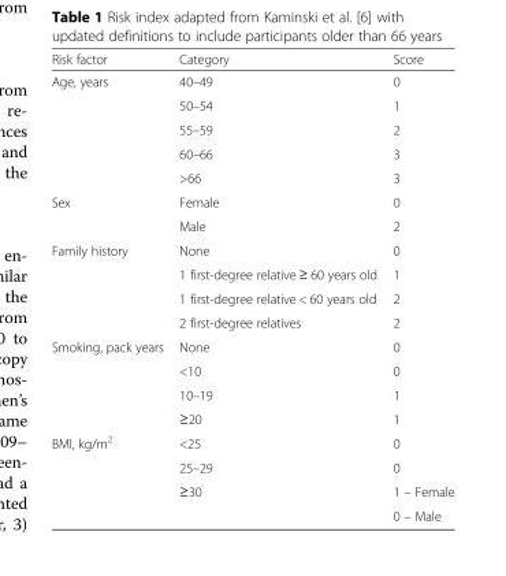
<table><thead><tr><td>Risk factor</td><td>Category</td><td>Score</td></tr></thead><tbody><tr><td rowspan="5">Age, years</td><td>40–49</td><td>0</td></tr><tr><td>50–54</td><td>1</td></tr><tr><td>55–59</td><td>2</td></tr><tr><td>60–66</td><td>3</td></tr><tr><td>&gt;66</td><td>3</td></tr><tr><td rowspan="2">Sex</td><td>Female</td><td>0</td></tr><tr><td>Male</td><td>2</td></tr><tr><td rowspan="4">Family history</td><td>None</td><td>0</td></tr><tr><td>1 first-degree relative ≥ 60 years old</td><td>1</td></tr><tr><td>1 first-degree relative &lt; 60 years old</td><td>2</td></tr><tr><td>2 first-degree relatives</td><td>2</td></tr><tr><td rowspan="4">Smoking, pack years</td><td>None</td><td>0</td></tr><tr><td>&lt;10</td><td>0</td></tr><tr><td>10–19</td><td>1</td></tr><tr><td>≥20</td><td>1</td></tr><tr><td rowspan="4">BMI, kg/m<sup>2</sup></td><td>&lt;25</td><td>0</td></tr><tr><td>25–29</td><td>0</td></tr><tr><td rowspan="2">≥30</td><td>1 – Female</td></tr><tr><td>0 – Male</td></tr></tbody></table>